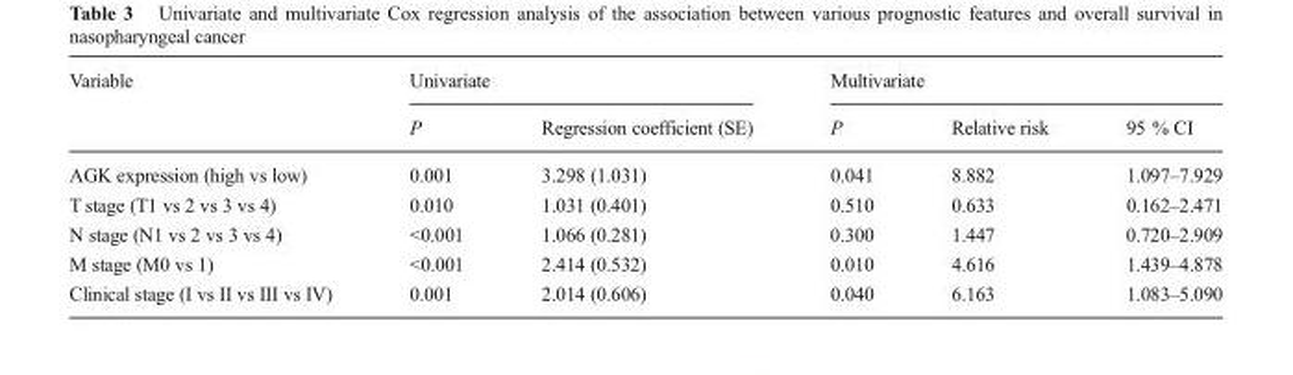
<table><thead><tr><td rowspan="2">Variable</td><td colspan="2">Univariate</td><td colspan="3">Multivariate</td></tr><tr><td>P</td><td>Regression coefficient (SE)</td><td>P</td><td>Relative risk</td><td>95 % CI</td></tr></thead><tbody><tr><td>AGK expression (high vs low)</td><td>0.001</td><td>3.298 (1.031)</td><td>0.041</td><td>8.882</td><td>1.097–7.929</td></tr><tr><td>T stage (T1 vs 2 vs 3 vs 4)</td><td>0.010</td><td>1.031 (0.401)</td><td>0.510</td><td>0.633</td><td>0.162–2.471</td></tr><tr><td>N stage (N1 vs 2 vs 3 vs 4)</td><td>&lt;0.001</td><td>1.066 (0.281)</td><td>0.300</td><td>1.447</td><td>0.720–2.909</td></tr><tr><td>M stage (M0 vs 1)</td><td>&lt;0.001</td><td>2.414 (0.532)</td><td>0.010</td><td>4.616</td><td>1.439–4.878</td></tr><tr><td>Clinical stage (I vs II vs III vs IV)</td><td>0.001</td><td>2.014 (0.606)</td><td>0.040</td><td>6.163</td><td>1.083–5.090</td></tr></tbody></table>